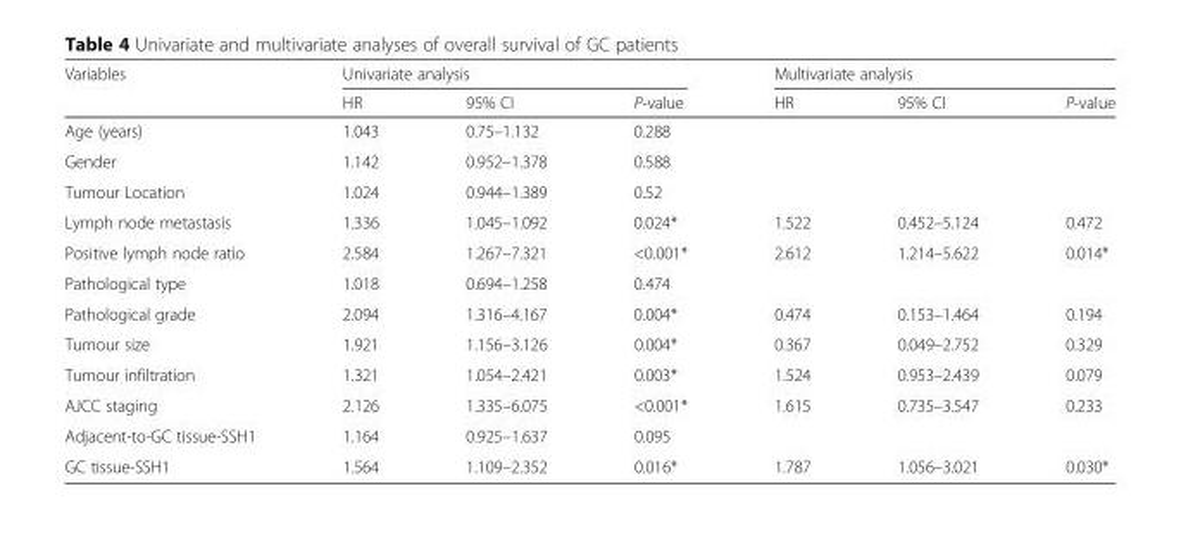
<table><thead><tr><td rowspan="2">Variables</td><td colspan="3">Univariate analysis</td><td colspan="3">Multivariate analysis</td></tr><tr><td>HR</td><td>95% CI</td><td>P-value</td><td>HR</td><td>95% CI</td><td>P-value</td></tr></thead><tbody><tr><td>Age (years)</td><td>1.043</td><td>0.75–1.132</td><td>0.288</td><td></td><td></td><td></td></tr><tr><td>Gender</td><td>1.142</td><td>0.952–1.378</td><td>0.588</td><td></td><td></td><td></td></tr><tr><td>Tumour Location</td><td>1.024</td><td>0.944–1.389</td><td>0.52</td><td></td><td></td><td></td></tr><tr><td>Lymph node metastasis</td><td>1.336</td><td>1.045–1.092</td><td>0.024*</td><td>1.522</td><td>0.452–5.124</td><td>0.472</td></tr><tr><td>Positive lymph node ratio</td><td>2.584</td><td>1.267–7.321</td><td>&lt;0.001*</td><td>2.612</td><td>1.214–5.622</td><td>0.014*</td></tr><tr><td>Pathological type</td><td>1.018</td><td>0.694–1.258</td><td>0.474</td><td></td><td></td><td></td></tr><tr><td>Pathological grade</td><td>2.094</td><td>1.316–4.167</td><td>0.004*</td><td>0.474</td><td>0.153–1.464</td><td>0.194</td></tr><tr><td>Tumour size</td><td>1.921</td><td>1.156–3.126</td><td>0.004*</td><td>0.367</td><td>0.049–2.752</td><td>0.329</td></tr><tr><td>Tumour infiltration</td><td>1.321</td><td>1.054–2.421</td><td>0.003*</td><td>1.524</td><td>0.953–2.439</td><td>0.079</td></tr><tr><td>AJCC staging</td><td>2.126</td><td>1.335–6.075</td><td>&lt;0.001*</td><td>1.615</td><td>0.735–3.547</td><td>0.233</td></tr><tr><td>Adjacent-to-GC tissue-SSH1</td><td>1.164</td><td>0.925–1.637</td><td>0.095</td><td></td><td></td><td></td></tr><tr><td>GC tissue-SSH1</td><td>1.564</td><td>1.109–2.352</td><td>0.016*</td><td>1.787</td><td>1.056–3.021</td><td>0.030*</td></tr></tbody></table>